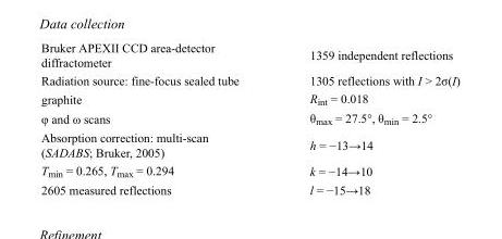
<table><tbody><tr><td>Bruker APEXII CCD area-detector diffractometer</td><td>1359 independent reflections</td></tr><tr><td>Radiation source: fine-focus sealed tube</td><td>1305 reflections with I &gt; 2σ(I)</td></tr><tr><td>graphite</td><td>R<sub>int</sub> = 0.018</td></tr><tr><td>φ and ω scans</td><td>θ<sub>max</sub> = 27.5°, θ<sub>min</sub> = 2.5°</td></tr><tr><td>Absorption correction: multi-scan (SADABS; Bruker, 2005)</td><td>h = −13→14</td></tr><tr><td>T<sub>min</sub> = 0.265, T<sub>max</sub> = 0.294</td><td>k = −14→10</td></tr><tr><td>2605 measured reflections</td><td>l = −15→18</td></tr></tbody></table>